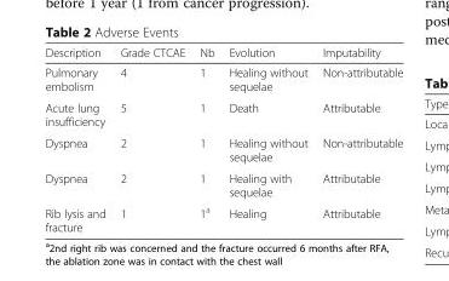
<table><thead><tr><td>Description</td><td>Grade CTCAE</td><td>Nb</td><td>Evolution</td><td>Imputability</td></tr></thead><tbody><tr><td>Pulmonary embolism</td><td>4</td><td>1</td><td>Healing without sequelae</td><td>Non-attributable</td></tr><tr><td>Acute lung insufficiency</td><td>5</td><td>1</td><td>Death</td><td>Attributable</td></tr><tr><td>Dyspnea</td><td>2</td><td>1</td><td>Healing without sequelae</td><td>Non-attributable</td></tr><tr><td>Dyspnea</td><td>2</td><td>1</td><td>Healing with sequelae</td><td>Attributable</td></tr><tr><td>Rib lysis and fracture</td><td>1</td><td>1<sup>a</sup></td><td>Healing</td><td>Attributable</td></tr></tbody></table>